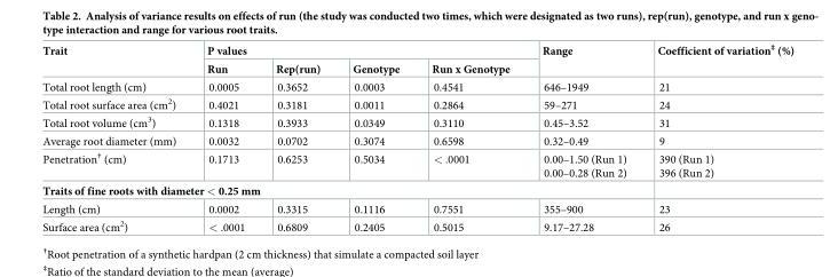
<table><thead><tr><td rowspan="2">Trait</td><td colspan="4">P values</td><td rowspan="2">Range</td><td rowspan="2">Coefficient of variation<sup>‡</sup> (%)</td></tr><tr><td>Run</td><td>Rep(run)</td><td>Genotype</td><td>Run x Genotype</td></tr></thead><tbody><tr><td>Total root length (cm)</td><td>0.0005</td><td>0.3652</td><td>0.0003</td><td>0.4541</td><td>646–1949</td><td>21</td></tr><tr><td>Total root surface area (cm<sup>2</sup>)</td><td>0.4021</td><td>0.3181</td><td>0.0011</td><td>0.2864</td><td>59–271</td><td>24</td></tr><tr><td>Total root volume (cm<sup>3</sup>)</td><td>0.1318</td><td>0.3933</td><td>0.0349</td><td>0.3110</td><td>0.45–3.52</td><td>31</td></tr><tr><td>Average root diameter (mm)</td><td>0.0032</td><td>0.0702</td><td>0.3074</td><td>0.6598</td><td>0.32–0.49</td><td>9</td></tr><tr><td>Penetration<sup>†</sup> (cm)</td><td>0.1713</td><td>0.6253</td><td>0.5034</td><td>&lt; .0001</td><td>0.00–1.50 (Run 1) 0.00–0.28 (Run 2)</td><td>390 (Run 1) 396 (Run 2)</td></tr><tr><td colspan="7">Traits of fine roots with diameter &lt; 0.25 mm</td></tr><tr><td>Length (cm)</td><td>0.0002</td><td>0.3315</td><td>0.1116</td><td>0.7551</td><td>355–900</td><td>23</td></tr><tr><td>Surface area (cm<sup>2</sup>)</td><td>&lt; .0001</td><td>0.6809</td><td>0.2405</td><td>0.5015</td><td>9.17–27.28</td><td>26</td></tr></tbody></table>